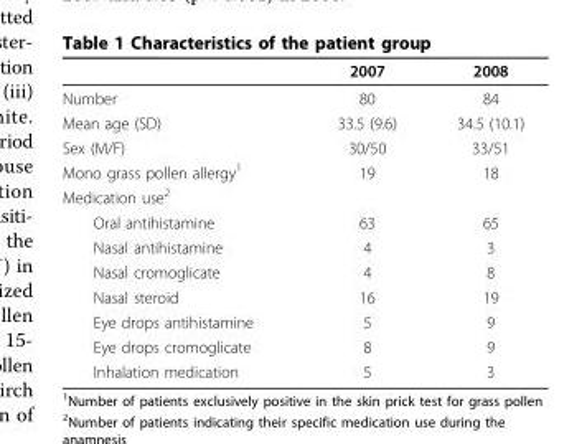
<table><thead><tr><td></td><td>2007</td><td>2008</td></tr></thead><tbody><tr><td>Number</td><td>80</td><td>84</td></tr><tr><td>Mean age (SD)</td><td>33.5 (9.6)</td><td>34.5 (10.1)</td></tr><tr><td>Sex (M/F)</td><td>30/50</td><td>33/51</td></tr><tr><td>Mono grass pollen allergy<sup>1</sup></td><td>19</td><td>18</td></tr><tr><td colspan="3">Medication use<sup>2</sup></td></tr><tr><td>Oral antihistamine</td><td>63</td><td>65</td></tr><tr><td>Nasal antihistamine</td><td>4</td><td>3</td></tr><tr><td>Nasal cromoglicate</td><td>4</td><td>8</td></tr><tr><td>Nasal steroid</td><td>16</td><td>19</td></tr><tr><td>Eye drops antihistamine</td><td>5</td><td>9</td></tr><tr><td>Eye drops cromoglicate</td><td>8</td><td>9</td></tr><tr><td>Inhalation medication</td><td>5</td><td>3</td></tr></tbody></table>